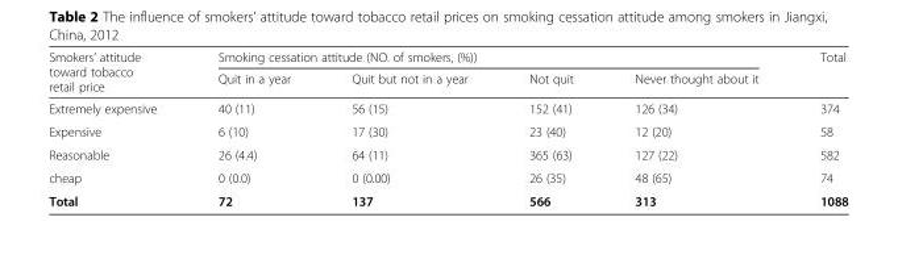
<table><thead><tr><td rowspan="2">Smokers’ attitude toward tobacco retail price</td><td colspan="4">Smoking cessation attitude (NO. of smokers, (%))</td><td rowspan="2">Total</td></tr><tr><td>Quit in a year</td><td>Quit but not in a year</td><td>Not quit</td><td>Never thought about it</td></tr></thead><tbody><tr><td>Extremely expensive</td><td>40 (11)</td><td>56 (15)</td><td>152 (41)</td><td>126 (34)</td><td>374</td></tr><tr><td>Expensive</td><td>6 (10)</td><td>17 (30)</td><td>23 (40)</td><td>12 (20)</td><td>58</td></tr><tr><td>Reasonable</td><td>26 (4.4)</td><td>64 (11)</td><td>365 (63)</td><td>127 (22)</td><td>582</td></tr><tr><td>cheap</td><td>0 (0.0)</td><td>0 (0.00)</td><td>26 (35)</td><td>48 (65)</td><td>74</td></tr><tr><td>Total</td><td>72</td><td>137</td><td>566</td><td>313</td><td>1088</td></tr></tbody></table>